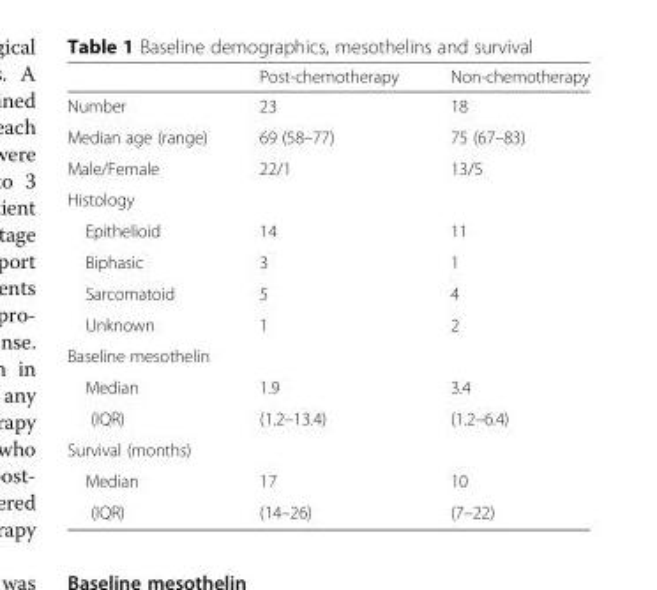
<table><thead><tr><td></td><td>Post-chemotherapy</td><td>Non-chemotherapy</td></tr></thead><tbody><tr><td>Number</td><td>23</td><td>18</td></tr><tr><td>Median age (range)</td><td>69 (58–77)</td><td>75 (67–83)</td></tr><tr><td>Male/Female</td><td>22/1</td><td>13/5</td></tr><tr><td colspan="3">Histology</td></tr><tr><td>Epithelioid</td><td>14</td><td>11</td></tr><tr><td>Biphasic</td><td>3</td><td>1</td></tr><tr><td>Sarcomatoid</td><td>5</td><td>4</td></tr><tr><td>Unknown</td><td>1</td><td>2</td></tr><tr><td colspan="3">Baseline mesothelin</td></tr><tr><td>Median</td><td>1.9</td><td>3.4</td></tr><tr><td>(IQR)</td><td>(1.2–13.4)</td><td>(1.2–6.4)</td></tr><tr><td colspan="3">Survival (months)</td></tr><tr><td>Median</td><td>17</td><td>10</td></tr><tr><td>(IQR)</td><td>(14–26)</td><td>(7–22)</td></tr></tbody></table>